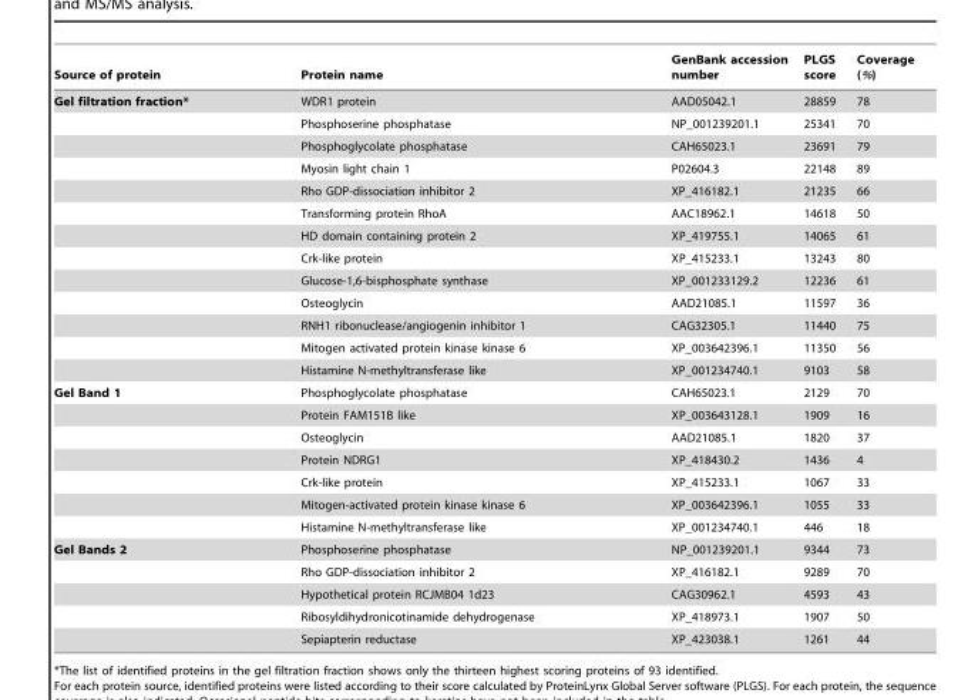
<table><thead><tr><td>Source of protein</td><td>Protein name</td><td>GenBank accession number</td><td>PLGS score</td><td>Coverage (%)</td></tr></thead><tbody><tr><td rowspan="13">Gel filtration fraction*</td><td>WDR1 protein</td><td>AAD05042.1</td><td>28859</td><td>78</td></tr><tr><td>Phosphoserine phosphatase</td><td>NP_001239201.1</td><td>25341</td><td>70</td></tr><tr><td>Phosphoglycolate phosphatase</td><td>CAH65023.1</td><td>23691</td><td>79</td></tr><tr><td>Myosin light chain 1</td><td>P02604.3</td><td>22148</td><td>89</td></tr><tr><td>Rho GDP-dissociation inhibitor 2</td><td>XP_416182.1</td><td>21235</td><td>66</td></tr><tr><td>Transforming protein RhoA</td><td>AAC18962.1</td><td>14618</td><td>50</td></tr><tr><td>HD domain containing protein 2</td><td>XP_419755.1</td><td>14065</td><td>61</td></tr><tr><td>Crk-like protein</td><td>XP_415233.1</td><td>13243</td><td>80</td></tr><tr><td>Glucose-1,6-bisphosphate synthase</td><td>XP_001233129.2</td><td>12236</td><td>61</td></tr><tr><td>Osteoglycin</td><td>AAD21085.1</td><td>11597</td><td>36</td></tr><tr><td>RNH1 ribonuclease/angiogenin inhibitor 1</td><td>CAG32305.1</td><td>11440</td><td>75</td></tr><tr><td>Mitogen activated protein kinase kinase 6</td><td>XP_003642396.1</td><td>11350</td><td>56</td></tr><tr><td>Histamine N-methyltransferase like</td><td>XP_001234740.1</td><td>9103</td><td>58</td></tr><tr><td rowspan="7">Gel Band 1</td><td>Phosphoglycolate phosphatase</td><td>CAH65023.1</td><td>2129</td><td>70</td></tr><tr><td>Protein FAM151B like</td><td>XP_003643128.1</td><td>1909</td><td>16</td></tr><tr><td>Osteoglycin</td><td>AAD21085.1</td><td>1820</td><td>37</td></tr><tr><td>Protein NDRG1</td><td>XP_418430.2</td><td>1436</td><td>4</td></tr><tr><td>Crk-like protein</td><td>XP_415233.1</td><td>1067</td><td>33</td></tr><tr><td>Mitogen-activated protein kinase kinase 6</td><td>XP_003642396.1</td><td>1055</td><td>33</td></tr><tr><td>Histamine N-methyltransferase like</td><td>XP_001234740.1</td><td>446</td><td>18</td></tr><tr><td rowspan="5">Gel Bands 2</td><td>Phosphoserine phosphatase</td><td>NP_001239201.1</td><td>9344</td><td>73</td></tr><tr><td>Rho GDP-dissociation inhibitor 2</td><td>XP_416182.1</td><td>9289</td><td>70</td></tr><tr><td>Hypothetical protein RCJMB04 1d23</td><td>CAG30962.1</td><td>4593</td><td>43</td></tr><tr><td>Ribosyldihydronicotinamide dehydrogenase</td><td>XP_418973.1</td><td>1907</td><td>50</td></tr><tr><td>Sepiapterin reductase</td><td>XP_423038.1</td><td>1261</td><td>44</td></tr></tbody></table>